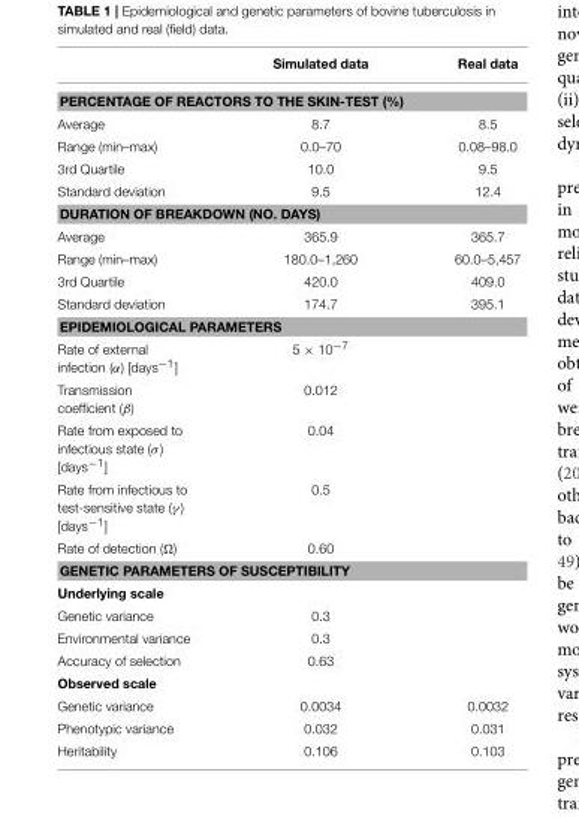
<table><thead><tr><td></td><td>Simulated data</td><td>Real data</td></tr></thead><tbody><tr><td colspan="3">PERCENTAGE OF REACTORS TO THE SKIN-TEST (%)</td></tr><tr><td>Average</td><td>8.7</td><td>8.5</td></tr><tr><td>Range (min–max)</td><td>0.0–70</td><td>0.08–98.0</td></tr><tr><td>3rd Quartile</td><td>10.0</td><td>9.5</td></tr><tr><td>Standard deviation</td><td>9.5</td><td>12.4</td></tr><tr><td colspan="3">DURATION OF BREAKDOWN (NO. DAYS)</td></tr><tr><td>Average</td><td>365.9</td><td>365.7</td></tr><tr><td>Range (min–max)</td><td>180.0–1,260</td><td>60.0–5,457</td></tr><tr><td>3rd Quartile</td><td>420.0</td><td>409.0</td></tr><tr><td>Standard deviation</td><td>174.7</td><td>395.1</td></tr><tr><td colspan="3">EPIDEMIOLOGICAL PARAMETERS</td></tr><tr><td>Rate of external infection (α) [days<sup>−1</sup>]</td><td>5 × 10<sup>−7</sup></td><td></td></tr><tr><td>Transmission coefficient (β)</td><td>0.012</td><td></td></tr><tr><td>Rate from exposed to infectious state (σ) [days<sup>−1</sup>]</td><td>0.04</td><td></td></tr><tr><td>Rate from infectious to test-sensitive state (γ ) [days<sup>−1</sup>]</td><td>0.5</td><td></td></tr><tr><td>Rate of detection (Ω)</td><td>0.60</td><td></td></tr><tr><td colspan="3">GENETIC PARAMETERS OF SUSCEPTIBILITY</td></tr><tr><td colspan="3">Underlying scale</td></tr><tr><td>Genetic variance</td><td>0.3</td><td></td></tr><tr><td>Environmental variance</td><td>0.3</td><td></td></tr><tr><td>Accuracy of selection</td><td>0.63</td><td></td></tr><tr><td colspan="3">Observed scale</td></tr><tr><td>Genetic variance</td><td>0.0034</td><td>0.0032</td></tr><tr><td>Phenotypic variance</td><td>0.032</td><td>0.031</td></tr><tr><td>Heritability</td><td>0.106</td><td>0.103</td></tr></tbody></table>